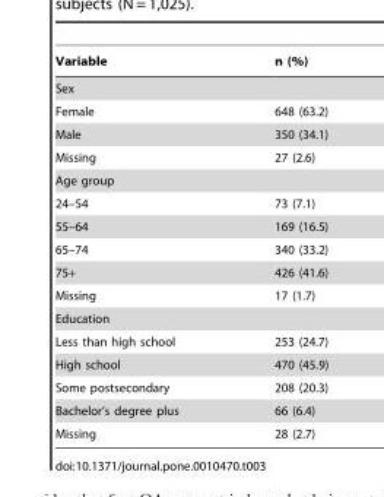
<table><thead><tr><td>Variable</td><td>n (%)</td></tr></thead><tbody><tr><td colspan="2">Sex</td></tr><tr><td>Female</td><td>648 (63.2)</td></tr><tr><td>Male</td><td>350 (34.1)</td></tr><tr><td>Missing</td><td>27 (2.6)</td></tr><tr><td colspan="2">Age group</td></tr><tr><td>24–54</td><td>73 (7.1)</td></tr><tr><td>55–64</td><td>169 (16.5)</td></tr><tr><td>65–74</td><td>340 (33.2)</td></tr><tr><td>75+</td><td>426 (41.6)</td></tr><tr><td>Missing</td><td>17 (1.7)</td></tr><tr><td colspan="2">Education</td></tr><tr><td>Less than high school</td><td>253 (24.7)</td></tr><tr><td>High school</td><td>470 (45.9)</td></tr><tr><td>Some postsecondary</td><td>208 (20.3)</td></tr><tr><td>Bachelor’s degree plus</td><td>66 (6.4)</td></tr><tr><td>Missing</td><td>28 (2.7)</td></tr></tbody></table>